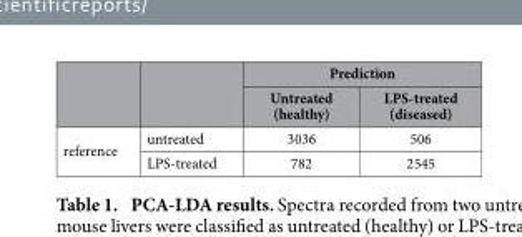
<table><thead><tr><td rowspan="2"></td><td rowspan="2"></td><td colspan="2">Prediction</td></tr><tr><td>Untreated (healthy)</td><td>LPS-treated (diseased)</td></tr></thead><tbody><tr><td rowspan="2">reference</td><td>untreated</td><td>3036</td><td>506</td></tr><tr><td>LPS-treated</td><td>782</td><td>2545</td></tr></tbody></table>